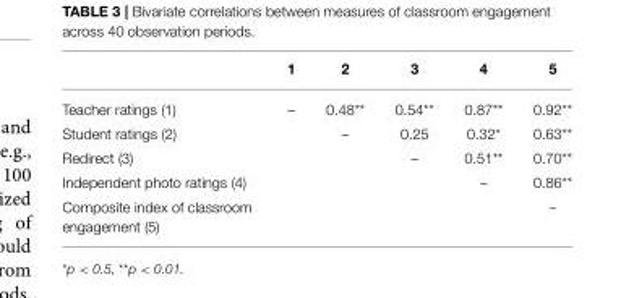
<table><thead><tr><td></td><td>1</td><td>2</td><td>3</td><td>4</td><td>5</td></tr></thead><tbody><tr><td>Teacher ratings (1)</td><td>–</td><td>0.48**</td><td>0.54**</td><td>0.87**</td><td>0.92**</td></tr><tr><td>Student ratings (2)</td><td></td><td>–</td><td>0.25</td><td>0.32*</td><td>0.63**</td></tr><tr><td>Redirect (3)</td><td></td><td></td><td>–</td><td>0.51**</td><td>0.70**</td></tr><tr><td>Independent photo ratings (4)</td><td></td><td></td><td></td><td>–</td><td>0.86**</td></tr><tr><td>Composite index of classroom engagement (5)</td><td></td><td></td><td></td><td></td><td>–</td></tr></tbody></table>